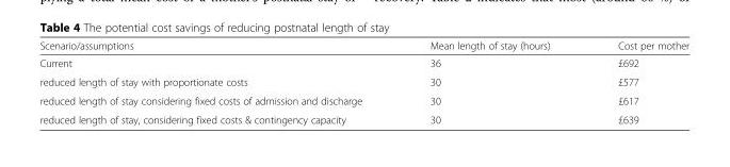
<table><thead><tr><td>Scenario/assumptions</td><td>Mean length of stay (hours)</td><td>Cost per mother</td></tr></thead><tbody><tr><td>Current</td><td>36</td><td>£692</td></tr><tr><td>reduced length of stay with proportionate costs</td><td>30</td><td>£577</td></tr><tr><td>reduced length of stay considering fixed costs of admission and discharge</td><td>30</td><td>£617</td></tr><tr><td>reduced length of stay, considering fixed costs &amp; contingency capacity</td><td>30</td><td>£639</td></tr></tbody></table>